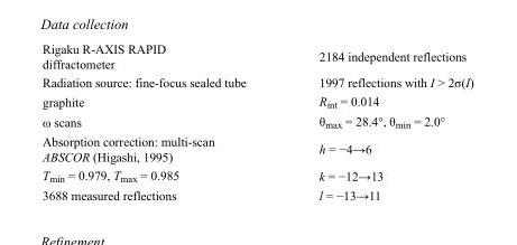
<table><tbody><tr><td>Rigaku R-AXIS RAPID diffractometer</td><td>2184 independent reflections</td></tr><tr><td>Radiation source: fine-focus sealed tube</td><td>1997 reflections with I &gt; 2σ(I)</td></tr><tr><td>graphite</td><td>R<sub>int</sub> = 0.014</td></tr><tr><td>ω scans</td><td>θ<sub>max</sub> = 28.4°, θ<sub>min</sub> = 2.0°</td></tr><tr><td>Absorption correction: multi-scan ABSCOR (Higashi, 1995)</td><td>h = −4→6</td></tr><tr><td>T<sub>min</sub> = 0.979, T<sub>max</sub> = 0.985</td><td>k = −12→13</td></tr><tr><td>3688 measured reflections</td><td>l = −13→11</td></tr></tbody></table>